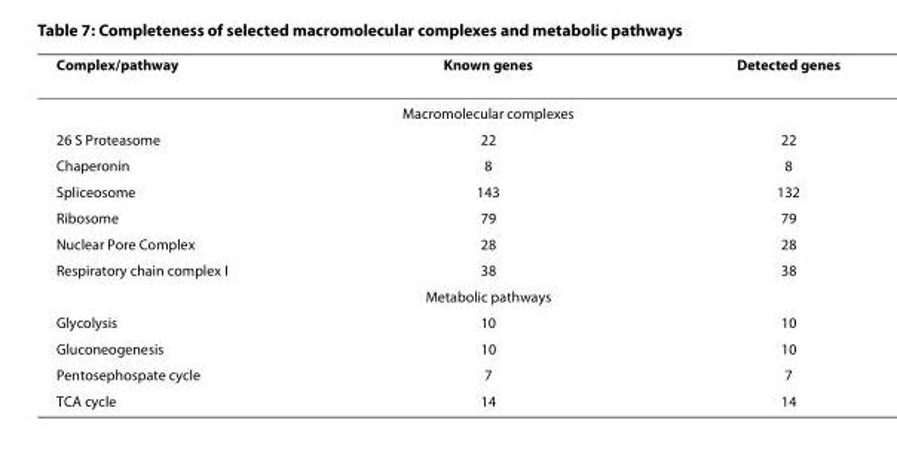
<table><thead><tr><td>Complex/pathway</td><td>Known genes</td><td>Detected genes</td></tr></thead><tbody><tr><td colspan="3">Macromolecular complexes</td></tr><tr><td>26 S Proteasome</td><td>22</td><td>22</td></tr><tr><td>Chaperonin</td><td>8</td><td>8</td></tr><tr><td>Spliceosome</td><td>143</td><td>132</td></tr><tr><td>Ribosome</td><td>79</td><td>79</td></tr><tr><td>Nuclear Pore Complex</td><td>28</td><td>28</td></tr><tr><td>Respiratory chain complex I</td><td>38</td><td>38</td></tr><tr><td colspan="3">Metabolic pathways</td></tr><tr><td>Glycolysis</td><td>10</td><td>10</td></tr><tr><td>Gluconeogenesis</td><td>10</td><td>10</td></tr><tr><td>Pentosephospate cycle</td><td>7</td><td>7</td></tr><tr><td>TCA cycle</td><td>14</td><td>14</td></tr></tbody></table>